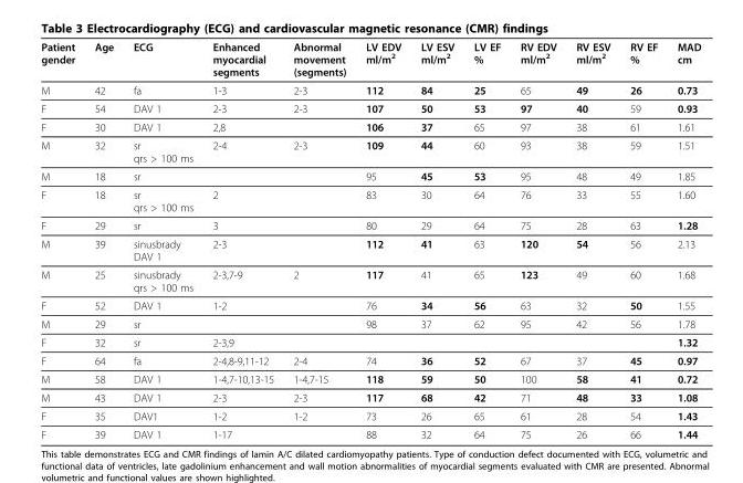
<table><thead><tr><td>Patient gender</td><td>Age</td><td>ECG</td><td>Enhanced myocardial segments</td><td>Abnormal movement (segments)</td><td>LV EDV ml/m<sup>2</sup></td><td>LV ESV ml/m<sup>2</sup></td><td>LV EF %</td><td>RV EDV ml/m<sup>2</sup></td><td>RV ESV ml/m<sup>2</sup></td><td>RV EF %</td><td>MAD cm</td></tr></thead><tbody><tr><td>M</td><td>42</td><td>fa</td><td>1-3</td><td>2-3</td><td>112</td><td>84</td><td>25</td><td>65</td><td>49</td><td>26</td><td>0.73</td></tr><tr><td>F</td><td>54</td><td>DAV 1</td><td>2-3</td><td>2-3</td><td>107</td><td>50</td><td>53</td><td>97</td><td>40</td><td>59</td><td>0.93</td></tr><tr><td>F</td><td>30</td><td>DAV 1</td><td>2,8</td><td></td><td>106</td><td>37</td><td>65</td><td>97</td><td>38</td><td>61</td><td>1.61</td></tr><tr><td>M</td><td>32</td><td>sr qrs &gt; 100 ms</td><td>2-4</td><td>2-3</td><td>109</td><td>44</td><td>60</td><td>93</td><td>38</td><td>59</td><td>1.51</td></tr><tr><td>M</td><td>18</td><td>sr</td><td></td><td></td><td>95</td><td>45</td><td>53</td><td>95</td><td>48</td><td>49</td><td>1.85</td></tr><tr><td>F</td><td>18</td><td>sr qrs &gt; 100 ms</td><td>2</td><td></td><td>83</td><td>30</td><td>64</td><td>76</td><td>33</td><td>55</td><td>1.60</td></tr><tr><td>F</td><td>29</td><td>sr</td><td>3</td><td></td><td>80</td><td>29</td><td>64</td><td>75</td><td>28</td><td>63</td><td>1.28</td></tr><tr><td>M</td><td>39</td><td>sinusbrady DAV 1</td><td>2-3</td><td></td><td>112</td><td>41</td><td>63</td><td>120</td><td>54</td><td>56</td><td>2.13</td></tr><tr><td>M</td><td>25</td><td>sinusbrady qrs &gt; 100 ms</td><td>2-3,7-9</td><td>2</td><td>117</td><td>41</td><td>65</td><td>123</td><td>49</td><td>60</td><td>1.68</td></tr><tr><td>F</td><td>52</td><td>DAV 1</td><td>1-2</td><td></td><td>76</td><td>34</td><td>56</td><td>63</td><td>32</td><td>50</td><td>1.55</td></tr><tr><td>M</td><td>29</td><td>sr</td><td></td><td></td><td>98</td><td>37</td><td>62</td><td>95</td><td>42</td><td>56</td><td>1.78</td></tr><tr><td>F</td><td>32</td><td>sr</td><td>2-3,9</td><td></td><td></td><td></td><td></td><td></td><td></td><td></td><td>1.32</td></tr><tr><td>F</td><td>64</td><td>fa</td><td>2-4,8-9,11-12</td><td>2-4</td><td>74</td><td>36</td><td>52</td><td>67</td><td>37</td><td>45</td><td>0.97</td></tr><tr><td>M</td><td>58</td><td>DAV 1</td><td>1-4,7-10,13-15</td><td>1-4,7-15</td><td>118</td><td>59</td><td>50</td><td>100</td><td>58</td><td>41</td><td>0.72</td></tr><tr><td>M</td><td>43</td><td>DAV 1</td><td>2-3</td><td>2-3</td><td>117</td><td>68</td><td>42</td><td>71</td><td>48</td><td>33</td><td>1.08</td></tr><tr><td>F</td><td>35</td><td>DAV1</td><td>1-2</td><td>1-2</td><td>73</td><td>26</td><td>65</td><td>61</td><td>28</td><td>54</td><td>1.43</td></tr><tr><td>F</td><td>39</td><td>DAV 1</td><td>1-17</td><td></td><td>88</td><td>32</td><td>64</td><td>75</td><td>26</td><td>66</td><td>1.44</td></tr></tbody></table>